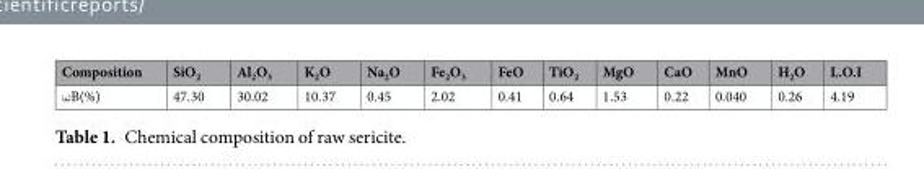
<table><thead><tr><td>Composition</td><td>SiO<sub>2</sub></td><td>Al<sub>2</sub>O<sub>3</sub></td><td>K<sub>2</sub>O</td><td>Na<sub>2</sub>O</td><td>Fe<sub>2</sub>O<sub>3</sub></td><td>FeO</td><td>TiO<sub>2</sub></td><td>MgO</td><td>CaO</td><td>MnO</td><td>H<sub>2</sub>O</td><td>L.O.I</td></tr></thead><tbody><tr><td>ωB(%)</td><td>47.30</td><td>30.02</td><td>10.37</td><td>0.45</td><td>2.02</td><td>0.41</td><td>0.64</td><td>1.53</td><td>0.22</td><td>0.040</td><td>0.26</td><td>4.19</td></tr></tbody></table>